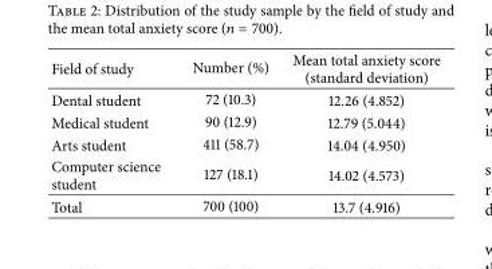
<table><thead><tr><td>Field of study</td><td>Number (%)</td><td>Mean total anxiety score (standard deviation)</td></tr></thead><tbody><tr><td>Dental student</td><td>72 (10.3)</td><td>12.26 (4.852)</td></tr><tr><td>Medical student</td><td>90 (12.9)</td><td>12.79 (5.044)</td></tr><tr><td>Arts student</td><td>411 (58.7)</td><td>14.04 (4.950)</td></tr><tr><td>Computer science student</td><td>127 (18.1)</td><td>14.02 (4.573)</td></tr><tr><td>Total</td><td>700 (100)</td><td>13.7 (4.916)</td></tr></tbody></table>